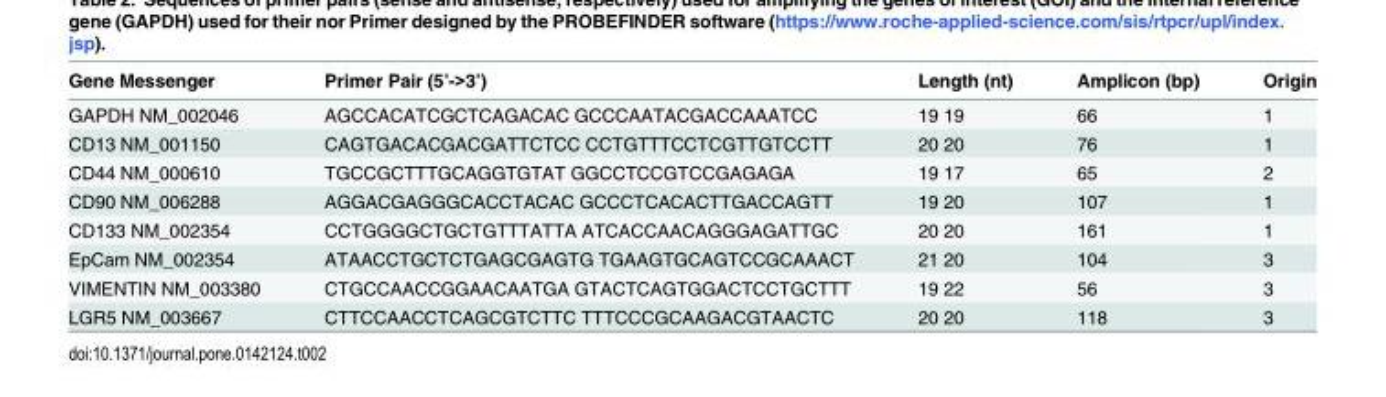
<table><thead><tr><td>Gene Messenger</td><td>Primer Pair (5’-&gt;3’)</td><td>Length (nt)</td><td>Amplicon (bp)</td><td>Origin</td></tr></thead><tbody><tr><td>GAPDH NM_002046</td><td>AGCCACATCGCTCAGACAC GCCCAATACGACCAAATCC</td><td>19 19</td><td>66</td><td>1</td></tr><tr><td>CD13 NM_001150</td><td>CAGTGACACGACGATTCTCC CCTGTTTCCTCGTTGTCCTT</td><td>20 20</td><td>76</td><td>1</td></tr><tr><td>CD44 NM_000610</td><td>TGCCGCTTTGCAGGTGTAT GGCCTCCGTCCGAGAGA</td><td>19 17</td><td>65</td><td>2</td></tr><tr><td>CD90 NM_006288</td><td>AGGACGAGGGCACCTACAC GCCCTCACACTTGACCAGTT</td><td>19 20</td><td>107</td><td>1</td></tr><tr><td>CD133 NM_002354</td><td>CCTGGGGCTGCTGTTTATTA ATCACCAACAGGGAGATTGC</td><td>20 20</td><td>161</td><td>1</td></tr><tr><td>EpCam NM_002354</td><td>ATAACCTGCTCTGAGCGAGTG TGAAGTGCAGTCCGCAAACT</td><td>21 20</td><td>104</td><td>3</td></tr><tr><td>VIMENTIN NM_003380</td><td>CTGCCAACCGGAACAATGA GTACTCAGTGGACTCCTGCTTT</td><td>19 22</td><td>56</td><td>3</td></tr><tr><td>LGR5 NM_003667</td><td>CTTCCAACCTCAGCGTCTTC TTTCCCGCAAGACGTAACTC</td><td>20 20</td><td>118</td><td>3</td></tr></tbody></table>